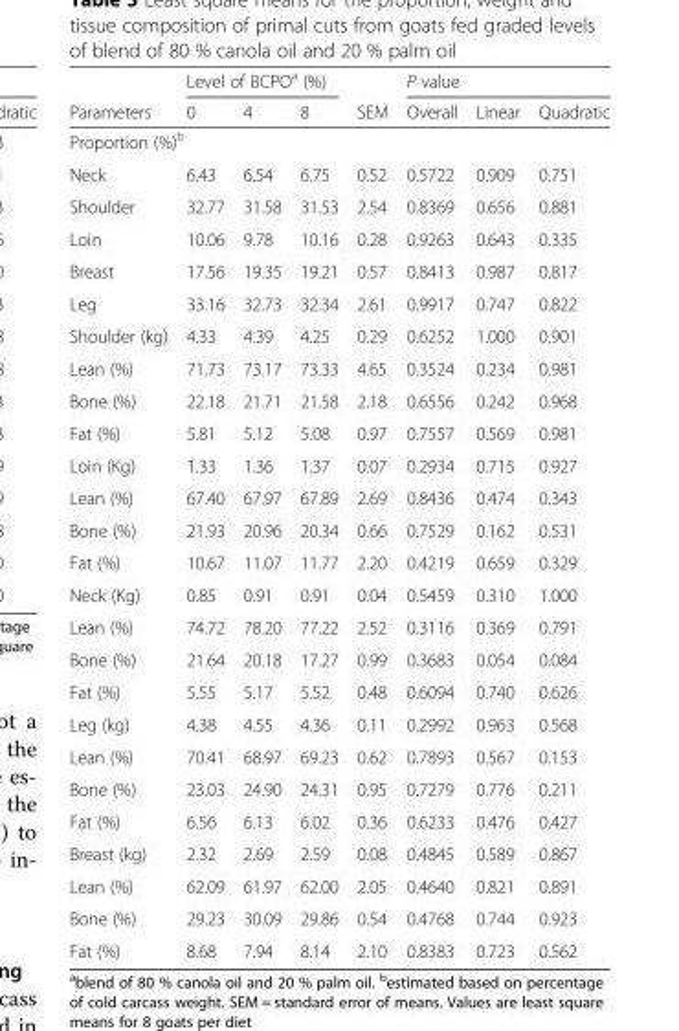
<table><thead><tr><td rowspan="2">Parameters</td><td colspan="3">Level of BCPO<sup>a</sup> (%)</td><td rowspan="2">SEM</td><td colspan="3">P value</td></tr><tr><td>0</td><td>4</td><td>8</td><td>Overall</td><td>Linear</td><td>Quadratic</td></tr></thead><tbody><tr><td colspan="8">Proportion (%)<sup>b</sup></td></tr><tr><td>Neck</td><td>6.43</td><td>6.54</td><td>6.75</td><td>0.52</td><td>0.5722</td><td>0.909</td><td>0.751</td></tr><tr><td>Shoulder</td><td>32.77</td><td>31.58</td><td>31.53</td><td>2.54</td><td>0.8369</td><td>0.656</td><td>0.881</td></tr><tr><td>Loin</td><td>10.06</td><td>9.78</td><td>10.16</td><td>0.28</td><td>0.9263</td><td>0.643</td><td>0.335</td></tr><tr><td>Breast</td><td>17.56</td><td>19.35</td><td>19.21</td><td>0.57</td><td>0.8413</td><td>0.987</td><td>0.817</td></tr><tr><td>Leg</td><td>33.16</td><td>32.73</td><td>32.34</td><td>2.61</td><td>0.9917</td><td>0.747</td><td>0.822</td></tr><tr><td>Shoulder (kg)</td><td>4.33</td><td>4.39</td><td>4.25</td><td>0.29</td><td>0.6252</td><td>1.000</td><td>0.901</td></tr><tr><td>Lean (%)</td><td>71.73</td><td>73.17</td><td>73.33</td><td>4.65</td><td>0.3524</td><td>0.234</td><td>0.981</td></tr><tr><td>Bone (%)</td><td>22.18</td><td>21.71</td><td>21.58</td><td>2.18</td><td>0.6556</td><td>0.242</td><td>0.968</td></tr><tr><td>Fat (%)</td><td>5.81</td><td>5.12</td><td>5.08</td><td>0.97</td><td>0.7557</td><td>0.569</td><td>0.981</td></tr><tr><td>Loin (Kg)</td><td>1.33</td><td>1.36</td><td>1.37</td><td>0.07</td><td>0.2934</td><td>0.715</td><td>0.927</td></tr><tr><td>Lean (%)</td><td>67.40</td><td>67.97</td><td>67.89</td><td>2.69</td><td>0.8436</td><td>0.474</td><td>0.343</td></tr><tr><td>Bone (%)</td><td>21.93</td><td>20.96</td><td>20.34</td><td>0.66</td><td>0.7529</td><td>0.162</td><td>0.531</td></tr><tr><td>Fat (%)</td><td>10.67</td><td>11.07</td><td>11.77</td><td>2.20</td><td>0.4219</td><td>0.659</td><td>0.329</td></tr><tr><td>Neck (Kg)</td><td>0.85</td><td>0.91</td><td>0.91</td><td>0.04</td><td>0.5459</td><td>0.310</td><td>1.000</td></tr><tr><td>Lean (%)</td><td>74.72</td><td>78.20</td><td>77.22</td><td>2.52</td><td>0.3116</td><td>0.369</td><td>0.791</td></tr><tr><td>Bone (%)</td><td>21.64</td><td>20.18</td><td>17.27</td><td>0.99</td><td>0.3683</td><td>0.054</td><td>0.084</td></tr><tr><td>Fat (%)</td><td>5.55</td><td>5.17</td><td>5.52</td><td>0.48</td><td>0.6094</td><td>0.740</td><td>0.626</td></tr><tr><td>Leg (kg)</td><td>4.38</td><td>4.55</td><td>4.36</td><td>0.11</td><td>0.2992</td><td>0.963</td><td>0.568</td></tr><tr><td>Lean (%)</td><td>70.41</td><td>68.97</td><td>69.23</td><td>0.62</td><td>0.7893</td><td>0.567</td><td>0.153</td></tr><tr><td>Bone (%)</td><td>23.03</td><td>24.90</td><td>24.31</td><td>0.95</td><td>0.7279</td><td>0.776</td><td>0.211</td></tr><tr><td>Fat (%)</td><td>6.56</td><td>6.13</td><td>6.02</td><td>0.36</td><td>0.6233</td><td>0.476</td><td>0.427</td></tr><tr><td>Breast (kg)</td><td>2.32</td><td>2.69</td><td>2.59</td><td>0.08</td><td>0.4845</td><td>0.589</td><td>0.867</td></tr><tr><td>Lean (%)</td><td>62.09</td><td>61.97</td><td>62.00</td><td>2.05</td><td>0.4640</td><td>0.821</td><td>0.891</td></tr><tr><td>Bone (%)</td><td>29.23</td><td>30.09</td><td>29.86</td><td>0.54</td><td>0.4768</td><td>0.744</td><td>0.923</td></tr><tr><td>Fat (%)</td><td>8.68</td><td>7.94</td><td>8.14</td><td>2.10</td><td>0.8383</td><td>0.723</td><td>0.562</td></tr></tbody></table>